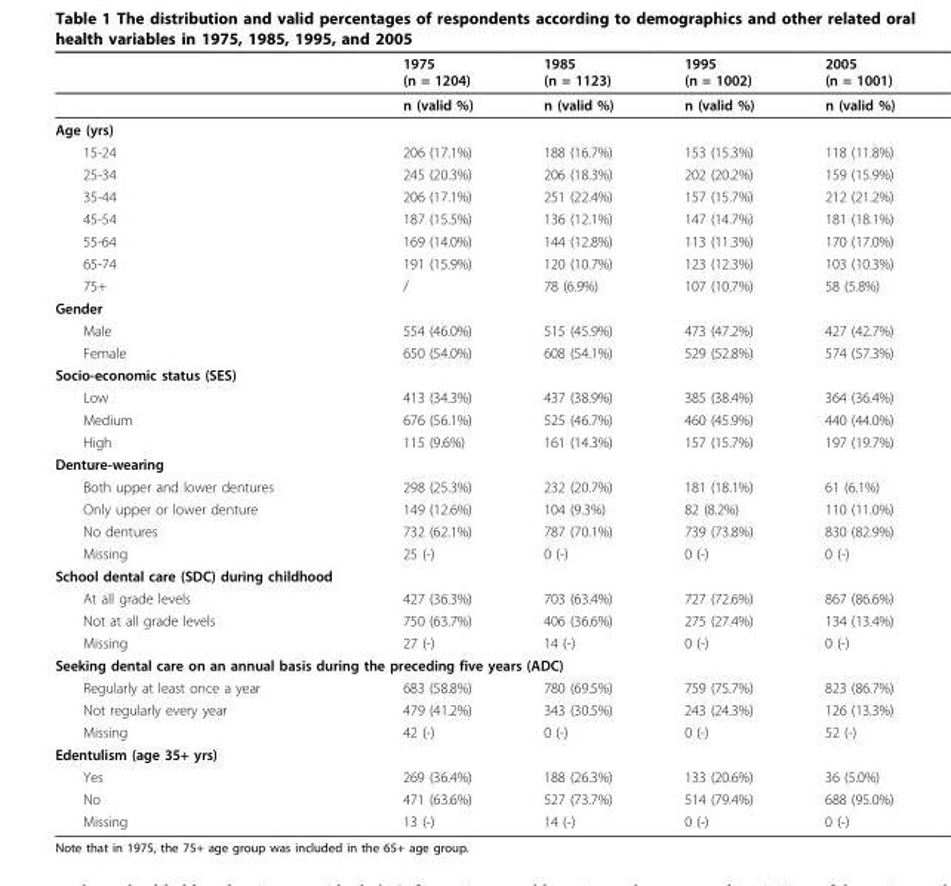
<table><thead><tr><td></td><td>1975 (n = 1204)</td><td>1985 (n = 1123)</td><td>1995 (n = 1002)</td><td>2005 (n = 1001)</td></tr></thead><tbody><tr><td></td><td>n (valid %)</td><td>n (valid %)</td><td>n (valid %)</td><td>n (valid %)</td></tr><tr><td colspan="5">Age (yrs)</td></tr><tr><td>15-24</td><td>206 (17.1%)</td><td>188 (16.7%)</td><td>153 (15.3%)</td><td>118 (11.8%)</td></tr><tr><td>25-34</td><td>245 (20.3%)</td><td>206 (18.3%)</td><td>202 (20.2%)</td><td>159 (15.9%)</td></tr><tr><td>35-44</td><td>206 (17.1%)</td><td>251 (22.4%)</td><td>157 (15.7%)</td><td>212 (21.2%)</td></tr><tr><td>45-54</td><td>187 (15.5%)</td><td>136 (12.1%)</td><td>147 (14.7%)</td><td>181 (18.1%)</td></tr><tr><td>55-64</td><td>169 (14.0%)</td><td>144 (12.8%)</td><td>113 (11.3%)</td><td>170 (17.0%)</td></tr><tr><td>65-74</td><td>191 (15.9%)</td><td>120 (10.7%)</td><td>123 (12.3%)</td><td>103 (10.3%)</td></tr><tr><td>75+</td><td>/</td><td>78 (6.9%)</td><td>107 (10.7%)</td><td>58 (5.8%)</td></tr><tr><td colspan="5">Gender</td></tr><tr><td>Male</td><td>554 (46.0%)</td><td>515 (45.9%)</td><td>473 (47.2%)</td><td>427 (42.7%)</td></tr><tr><td>Female</td><td>650 (54.0%)</td><td>608 (54.1%)</td><td>529 (52.8%)</td><td>574 (57.3%)</td></tr><tr><td colspan="5">Socio-economic status (SES)</td></tr><tr><td>Low</td><td>413 (34.3%)</td><td>437 (38.9%)</td><td>385 (38.4%)</td><td>364 (36.4%)</td></tr><tr><td>Medium</td><td>676 (56.1%)</td><td>525 (46.7%)</td><td>460 (45.9%)</td><td>440 (44.0%)</td></tr><tr><td>High</td><td>115 (9.6%)</td><td>161 (14.3%)</td><td>157 (15.7%)</td><td>197 (19.7%)</td></tr><tr><td colspan="5">Denture-wearing</td></tr><tr><td>Both upper and lower dentures</td><td>298 (25.3%)</td><td>232 (20.7%)</td><td>181 (18.1%)</td><td>61 (6.1%)</td></tr><tr><td>Only upper or lower denture</td><td>149 (12.6%)</td><td>104 (9.3%)</td><td>82 (8.2%)</td><td>110 (11.0%)</td></tr><tr><td>No dentures</td><td>732 (62.1%)</td><td>787 (70.1%)</td><td>739 (73.8%)</td><td>830 (82.9%)</td></tr><tr><td>Missing</td><td>25 (-)</td><td>0 (-)</td><td>0 (-)</td><td>0 (-)</td></tr><tr><td colspan="5">School dental care (SDC) during childhood</td></tr><tr><td>At all grade levels</td><td>427 (36.3%)</td><td>703 (63.4%)</td><td>727 (72.6%)</td><td>867 (86.6%)</td></tr><tr><td>Not at all grade levels</td><td>750 (63.7%)</td><td>406 (36.6%)</td><td>275 (27.4%)</td><td>134 (13.4%)</td></tr><tr><td>Missing</td><td>27 (-)</td><td>14 (-)</td><td>0 (-)</td><td>0 (-)</td></tr><tr><td colspan="5">Seeking dental care on an annual basis during the preceding five years (ADC)</td></tr><tr><td>Regularly at least once a year</td><td>683 (58.8%)</td><td>780 (69.5%)</td><td>759 (75.7%)</td><td>823 (86.7%)</td></tr><tr><td>Not regularly every year</td><td>479 (41.2%)</td><td>343 (30.5%)</td><td>243 (24.3%)</td><td>126 (13.3%)</td></tr><tr><td>Missing</td><td>42 (-)</td><td>0 (-)</td><td>0 (-)</td><td>52 (-)</td></tr><tr><td colspan="5">Edentulism (age 35+ yrs)</td></tr><tr><td>Yes</td><td>269 (36.4%)</td><td>188 (26.3%)</td><td>133 (20.6%)</td><td>36 (5.0%)</td></tr><tr><td>No</td><td>471 (63.6%)</td><td>527 (73.7%)</td><td>514 (79.4%)</td><td>688 (95.0%)</td></tr><tr><td>Missing</td><td>13 (-)</td><td>14 (-)</td><td>0 (-)</td><td>0 (-)</td></tr></tbody></table>